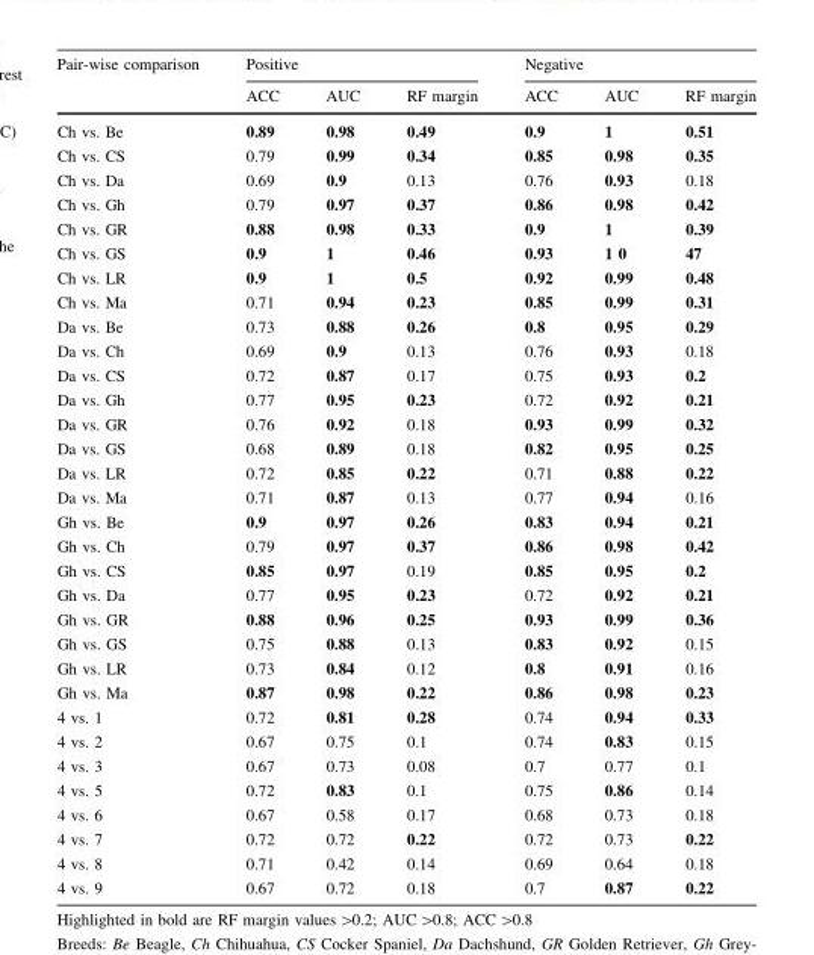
<table><thead><tr><td rowspan="2">Pair-wise comparison</td><td colspan="3">Positive</td><td colspan="3">Negative</td></tr><tr><td>ACC</td><td>AUC</td><td>RF margin</td><td>ACC</td><td>AUC</td><td>RF margin</td></tr></thead><tbody><tr><td>Ch vs. Be</td><td>0.89</td><td>0.98</td><td>0.49</td><td>0.9</td><td>1</td><td>0.51</td></tr><tr><td>Ch vs. CS</td><td>0.79</td><td>0.99</td><td>0.34</td><td>0.85</td><td>0.98</td><td>0.35</td></tr><tr><td>Ch vs. Da</td><td>0.69</td><td>0.9</td><td>0.13</td><td>0.76</td><td>0.93</td><td>0.18</td></tr><tr><td>Ch vs. Gh</td><td>0.79</td><td>0.97</td><td>0.37</td><td>0.86</td><td>0.98</td><td>0.42</td></tr><tr><td>Ch vs. GR</td><td>0.88</td><td>0.98</td><td>0.33</td><td>0.9</td><td>1</td><td>0.39</td></tr><tr><td>Ch vs. GS</td><td>0.9</td><td>1</td><td>0.46</td><td>0.93</td><td>1 0</td><td>47</td></tr><tr><td>Ch vs. LR</td><td>0.9</td><td>1</td><td>0.5</td><td>0.92</td><td>0.99</td><td>0.48</td></tr><tr><td>Ch vs. Ma</td><td>0.71</td><td>0.94</td><td>0.23</td><td>0.85</td><td>0.99</td><td>0.31</td></tr><tr><td>Da vs. Be</td><td>0.73</td><td>0.88</td><td>0.26</td><td>0.8</td><td>0.95</td><td>0.29</td></tr><tr><td>Da vs. Ch</td><td>0.69</td><td>0.9</td><td>0.13</td><td>0.76</td><td>0.93</td><td>0.18</td></tr><tr><td>Da vs. CS</td><td>0.72</td><td>0.87</td><td>0.17</td><td>0.75</td><td>0.93</td><td>0.2</td></tr><tr><td>Da vs. Gh</td><td>0.77</td><td>0.95</td><td>0.23</td><td>0.72</td><td>0.92</td><td>0.21</td></tr><tr><td>Da vs. GR</td><td>0.76</td><td>0.92</td><td>0.18</td><td>0.93</td><td>0.99</td><td>0.32</td></tr><tr><td>Da vs. GS</td><td>0.68</td><td>0.89</td><td>0.18</td><td>0.82</td><td>0.95</td><td>0.25</td></tr><tr><td>Da vs. LR</td><td>0.72</td><td>0.85</td><td>0.22</td><td>0.71</td><td>0.88</td><td>0.22</td></tr><tr><td>Da vs. Ma</td><td>0.71</td><td>0.87</td><td>0.13</td><td>0.77</td><td>0.94</td><td>0.16</td></tr><tr><td>Gh vs. Be</td><td>0.9</td><td>0.97</td><td>0.26</td><td>0.83</td><td>0.94</td><td>0.21</td></tr><tr><td>Gh vs. Ch</td><td>0.79</td><td>0.97</td><td>0.37</td><td>0.86</td><td>0.98</td><td>0.42</td></tr><tr><td>Gh vs. CS</td><td>0.85</td><td>0.97</td><td>0.19</td><td>0.85</td><td>0.95</td><td>0.2</td></tr><tr><td>Gh vs. Da</td><td>0.77</td><td>0.95</td><td>0.23</td><td>0.72</td><td>0.92</td><td>0.21</td></tr><tr><td>Gh vs. GR</td><td>0.88</td><td>0.96</td><td>0.25</td><td>0.93</td><td>0.99</td><td>0.36</td></tr><tr><td>Gh vs. GS</td><td>0.75</td><td>0.88</td><td>0.13</td><td>0.83</td><td>0.92</td><td>0.15</td></tr><tr><td>Gh vs. LR</td><td>0.73</td><td>0.84</td><td>0.12</td><td>0.8</td><td>0.91</td><td>0.16</td></tr><tr><td>Gh vs. Ma</td><td>0.87</td><td>0.98</td><td>0.22</td><td>0.86</td><td>0.98</td><td>0.23</td></tr><tr><td>4 vs. 1</td><td>0.72</td><td>0.81</td><td>0.28</td><td>0.74</td><td>0.94</td><td>0.33</td></tr><tr><td>4 vs. 2</td><td>0.67</td><td>0.75</td><td>0.1</td><td>0.74</td><td>0.83</td><td>0.15</td></tr><tr><td>4 vs. 3</td><td>0.67</td><td>0.73</td><td>0.08</td><td>0.7</td><td>0.77</td><td>0.1</td></tr><tr><td>4 vs. 5</td><td>0.72</td><td>0.83</td><td>0.1</td><td>0.75</td><td>0.86</td><td>0.14</td></tr><tr><td>4 vs. 6</td><td>0.67</td><td>0.58</td><td>0.17</td><td>0.68</td><td>0.73</td><td>0.18</td></tr><tr><td>4 vs. 7</td><td>0.72</td><td>0.72</td><td>0.22</td><td>0.72</td><td>0.73</td><td>0.22</td></tr><tr><td>4 vs. 8</td><td>0.71</td><td>0.42</td><td>0.14</td><td>0.69</td><td>0.64</td><td>0.18</td></tr><tr><td>4 vs. 9</td><td>0.67</td><td>0.72</td><td>0.18</td><td>0.7</td><td>0.87</td><td>0.22</td></tr></tbody></table>